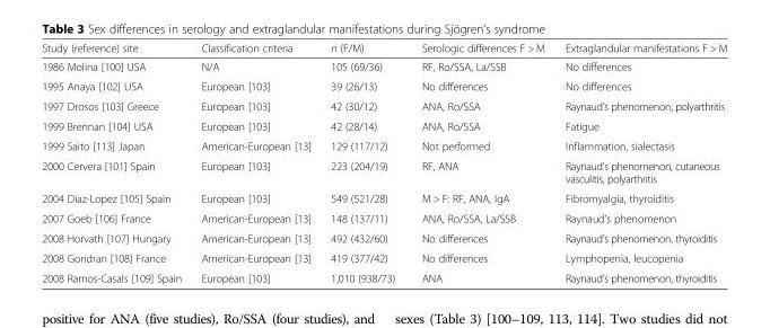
<table><thead><tr><td>Study (reference) site</td><td>Classification criteria</td><td>n (F/M)</td><td>Serologic differences F &gt; M</td><td>Extraglandular manifestations F &gt; M</td></tr></thead><tbody><tr><td>1986 Molina [100] USA</td><td>N/A</td><td>105 (69/36)</td><td>RF, Ro/SSA, La/SSB</td><td>No differences</td></tr><tr><td>1995 Anaya [102] USA</td><td>European [103]</td><td>39 (26/13)</td><td>No differences</td><td>No differences</td></tr><tr><td>1997 Drosos [103] Greece</td><td>European [103]</td><td>42 (30/12)</td><td>ANA, Ro/SSA</td><td>Raynaud’s phenomenon, polyarthritis</td></tr><tr><td>1999 Brennan [104] USA</td><td>European [103]</td><td>42 (28/14)</td><td>ANA, Ro/SSA</td><td>Fatigue</td></tr><tr><td>1999 Saito [113] Japan</td><td>American-European [13]</td><td>129 (117/12)</td><td>Not performed</td><td>Inflammation, sialectasis</td></tr><tr><td>2000 Cervera [101] Spain</td><td>European [103]</td><td>223 (204/19)</td><td>RF, ANA</td><td>Raynaud’s phenomenon, cutaneous vasculitis, polyarthritis</td></tr><tr><td>2004 Diaz-Lopez [105] Spain</td><td>European [103]</td><td>549 (521/28)</td><td>M &gt; F: RF, ANA, IgA</td><td>Fibromyalgia, thyroiditis</td></tr><tr><td>2007 Goeb [106] France</td><td>American-European [13]</td><td>148 (137/11)</td><td>ANA, Ro/SSA, La/SSB</td><td>Raynaud’s phenomenon</td></tr><tr><td>2008 Horvath [107] Hungary</td><td>American-European [13]</td><td>492 (432/60)</td><td>No differences</td><td>Raynaud’s phenomenon, thyroiditis</td></tr><tr><td>2008 Gondran [108] France</td><td>American-European [13]</td><td>419 (377/42)</td><td>No differences</td><td>Lymphopenia, leucopenia</td></tr><tr><td>2008 Ramos-Casals [109] Spain</td><td>European [103]</td><td>1,010 (938/73)</td><td>ANA</td><td>Raynaud’s phenomenon, thyroiditis</td></tr></tbody></table>